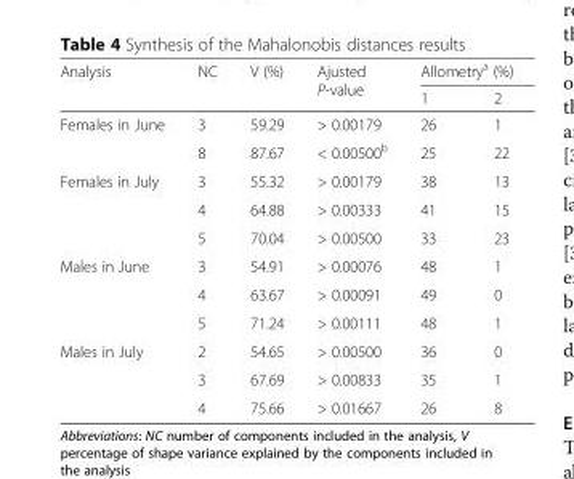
<table><thead><tr><td rowspan="2">Analysis</td><td rowspan="2">NC</td><td rowspan="2">V (%)</td><td rowspan="2">Ajusted P-value</td><td colspan="2">Allometry<sup>a</sup> (%)</td></tr><tr><td>1</td><td>2</td></tr></thead><tbody><tr><td rowspan="2">Females in June</td><td>3</td><td>59.29</td><td>&gt; 0.00179</td><td>26</td><td>1</td></tr><tr><td>8</td><td>87.67</td><td>&lt; 0.00500<sup>b</sup></td><td>25</td><td>22</td></tr><tr><td rowspan="3">Females in July</td><td>3</td><td>55.32</td><td>&gt; 0.00179</td><td>38</td><td>13</td></tr><tr><td>4</td><td>64.88</td><td>&gt; 0.00333</td><td>41</td><td>15</td></tr><tr><td>5</td><td>70.04</td><td>&gt; 0.00500</td><td>33</td><td>23</td></tr><tr><td rowspan="3">Males in June</td><td>3</td><td>54.91</td><td>&gt; 0.00076</td><td>48</td><td>1</td></tr><tr><td>4</td><td>63.67</td><td>&gt; 0.00091</td><td>49</td><td>0</td></tr><tr><td>5</td><td>71.24</td><td>&gt; 0.00111</td><td>48</td><td>1</td></tr><tr><td rowspan="3">Males in July</td><td>2</td><td>54.65</td><td>&gt; 0.00500</td><td>36</td><td>0</td></tr><tr><td>3</td><td>67.69</td><td>&gt; 0.00833</td><td>35</td><td>1</td></tr><tr><td>4</td><td>75.66</td><td>&gt; 0.01667</td><td>26</td><td>8</td></tr></tbody></table>